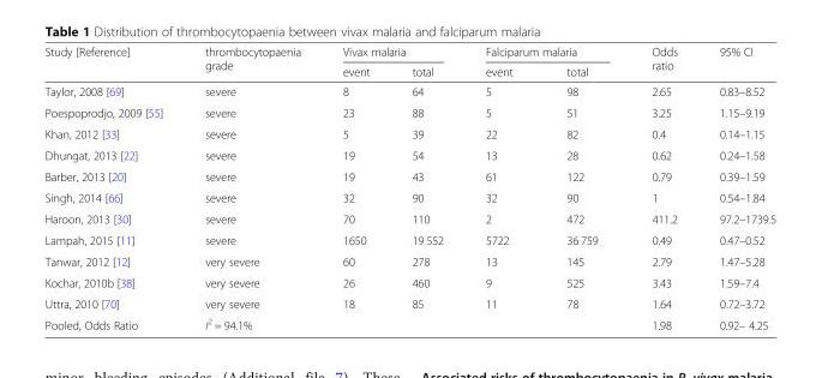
<table><thead><tr><td rowspan="2">Study [Reference]</td><td rowspan="2">thrombocytopaenia grade</td><td colspan="2">Vivax malaria</td><td colspan="2">Falciparum malaria</td><td rowspan="2">Odds ratio</td><td rowspan="2">95% CI</td></tr><tr><td>event</td><td>total</td><td>event</td><td>total</td></tr></thead><tbody><tr><td>Taylor, 2008 [69]</td><td>severe</td><td>8</td><td>64</td><td>5</td><td>98</td><td>2.65</td><td>0.83–8.52</td></tr><tr><td>Poespoprodjo, 2009 [55]</td><td>severe</td><td>23</td><td>88</td><td>5</td><td>51</td><td>3.25</td><td>1.15–9.19</td></tr><tr><td>Khan, 2012 [33]</td><td>severe</td><td>5</td><td>39</td><td>22</td><td>82</td><td>0.4</td><td>0.14–1.15</td></tr><tr><td>Dhungat, 2013 [22]</td><td>severe</td><td>19</td><td>54</td><td>13</td><td>28</td><td>0.62</td><td>0.24–1.58</td></tr><tr><td>Barber, 2013 [20]</td><td>severe</td><td>19</td><td>43</td><td>61</td><td>122</td><td>0.79</td><td>0.39–1.59</td></tr><tr><td>Singh, 2014 [66]</td><td>severe</td><td>32</td><td>90</td><td>32</td><td>90</td><td>1</td><td>0.54–1.84</td></tr><tr><td>Haroon, 2013 [30]</td><td>severe</td><td>70</td><td>110</td><td>2</td><td>472</td><td>411.2</td><td>97.2–1739.5</td></tr><tr><td>Lampah, 2015 [11]</td><td>severe</td><td>1650</td><td>19 552</td><td>5722</td><td>36 759</td><td>0.49</td><td>0.47–0.52</td></tr><tr><td>Tanwar, 2012 [12]</td><td>very severe</td><td>60</td><td>278</td><td>13</td><td>145</td><td>2.79</td><td>1.47–5.28</td></tr><tr><td>Kochar, 2010b [38]</td><td>very severe</td><td>26</td><td>460</td><td>9</td><td>525</td><td>3.43</td><td>1.59–7.4</td></tr><tr><td>Uttra, 2010 [70]</td><td>very severe</td><td>18</td><td>85</td><td>11</td><td>78</td><td>1.64</td><td>0.72–3.72</td></tr><tr><td>Pooled, Odds Ratio</td><td>I<sup>2</sup> = 94.1%</td><td></td><td></td><td></td><td></td><td>1.98</td><td>0.92– 4.25</td></tr></tbody></table>